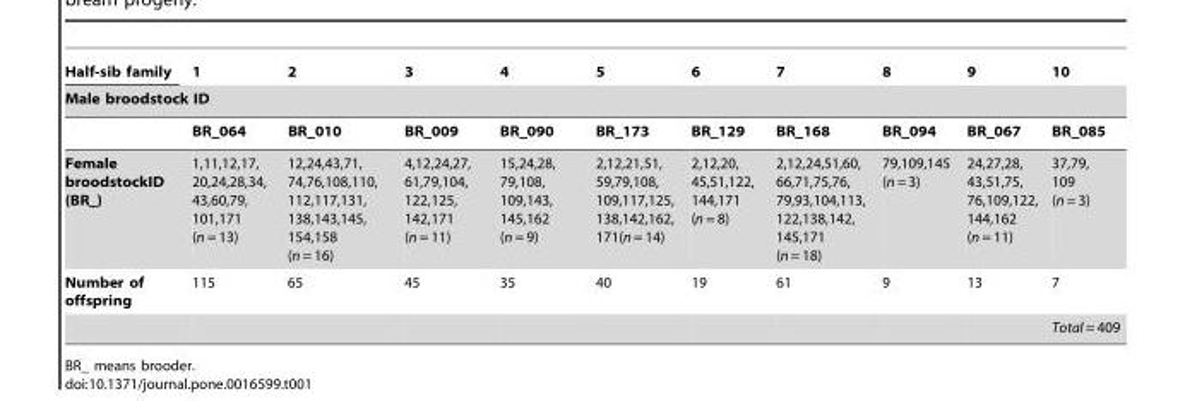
<table><thead><tr><td>Half-sib family</td><td>1</td><td>2</td><td>3</td><td>4</td><td>5</td><td>6</td><td>7</td><td>8</td><td>9</td><td>10</td></tr><tr><td colspan="11">Male broodstock ID</td></tr><tr><td></td><td>BR__064</td><td>BR__010</td><td>BR__009</td><td>BR__090</td><td>BR__173</td><td>BR__129</td><td>BR__168</td><td>BR__094</td><td>BR__067</td><td>BR__085</td></tr></thead><tbody><tr><td>Female broodstockID (BR__)</td><td>1,11,12,17, 20,24,28,34, 43,60,79, 101,171 (n = 13)</td><td>12,24,43,71, 74,76,108,110, 112,117,131, 138,143,145, 154,158 (n = 16)</td><td>4,12,24,27, 61,79,104, 122,125, 142,171 (n = 11)</td><td>15,24,28, 79,108, 109,143, 145,162 (n = 9)</td><td>2,12,21,51, 59,79,108, 109,117,125, 138,142,162, 171(n = 14)</td><td>2,12,20, 45,51,122, 144,171 (n = 8)</td><td>2,12,24,51,60, 66,71,75,76, 79,93,104,113, 122,138,142, 145,171 (n = 18)</td><td>79,109,145 (n = 3)</td><td>24,27,28, 43,51,75, 76,109,122, 144,162 (n = 11)</td><td>37,79, 109 (n = 3)</td></tr><tr><td rowspan="2">Number of offspring</td><td>115</td><td>65</td><td>45</td><td>35</td><td>40</td><td>19</td><td>61</td><td>9</td><td>13</td><td>7</td></tr><tr><td></td><td></td><td></td><td></td><td></td><td></td><td></td><td></td><td></td><td>Total = 409</td></tr></tbody></table>